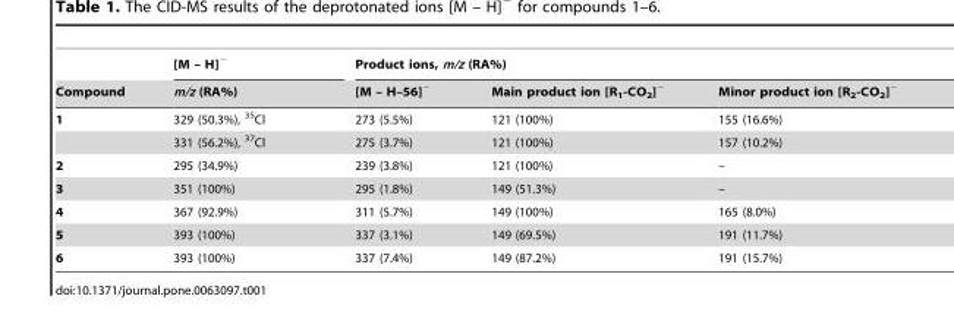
<table><thead><tr><td rowspan="2">Compound</td><td rowspan="2">[M – H]<sup>−</sup> m/z (RA%)</td><td colspan="3">Product ions, m/z (RA%)</td></tr><tr><td>[M – H–56]<sup>−</sup></td><td>Main product ion [R<sub>1</sub>-CO<sub>2</sub>]<sup>−</sup></td><td>Minor product ion [R<sub>2</sub>-CO<sub>2</sub>]<sup>−</sup></td></tr></thead><tbody><tr><td rowspan="2">1</td><td>329 (50.3%), <sup>35</sup>Cl</td><td>273 (5.5%)</td><td>121 (100%)</td><td>155 (16.6%)</td></tr><tr><td>331 (56.2%), <sup>37</sup>Cl</td><td>275 (3.7%)</td><td>121 (100%)</td><td>157 (10.2%)</td></tr><tr><td>2</td><td>295 (34.9%)</td><td>239 (3.8%)</td><td>121 (100%)</td><td>–</td></tr><tr><td>3</td><td>351 (100%)</td><td>295 (1.8%)</td><td>149 (51.3%)</td><td>–</td></tr><tr><td>4</td><td>367 (92.9%)</td><td>311 (5.7%)</td><td>149 (100%)</td><td>165 (8.0%)</td></tr><tr><td>5</td><td>393 (100%)</td><td>337 (3.1%)</td><td>149 (69.5%)</td><td>191 (11.7%)</td></tr><tr><td>6</td><td>393 (100%)</td><td>337 (7.4%)</td><td>149 (87.2%)</td><td>191 (15.7%)</td></tr></tbody></table>